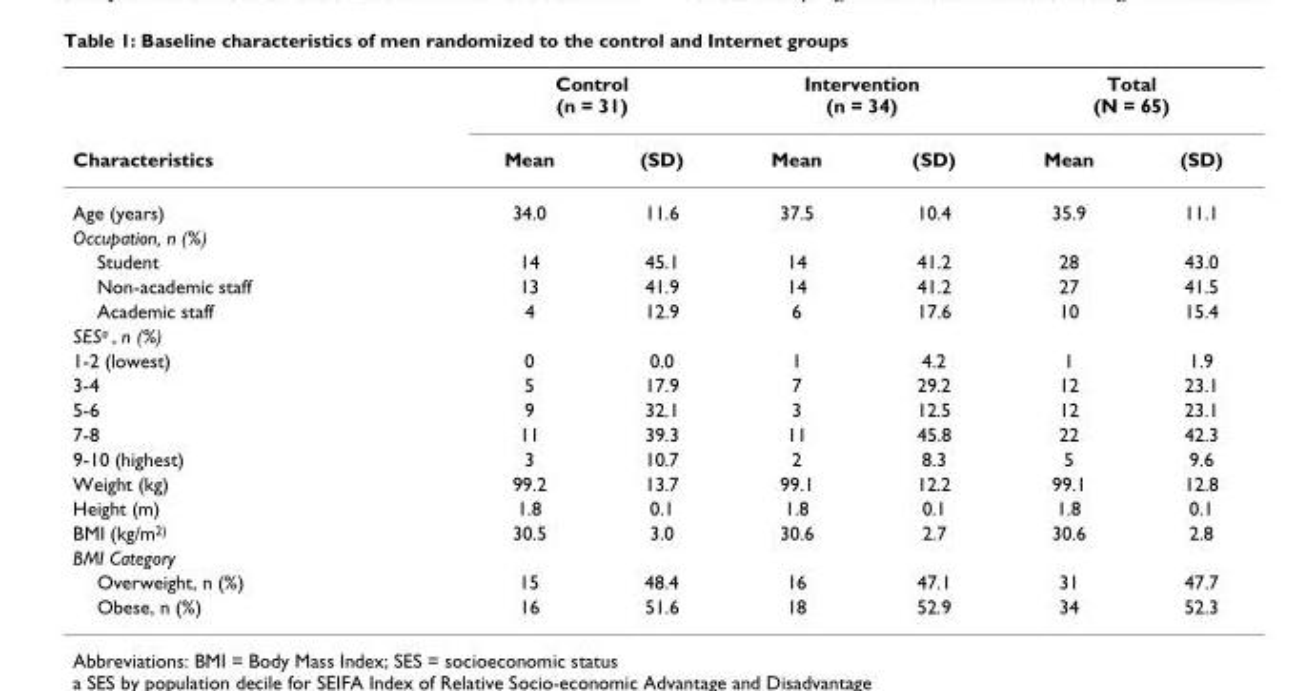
<table><thead><tr><td rowspan="2">Characteristics</td><td colspan="2">Control (n = 31)</td><td colspan="2">Intervention (n = 34)</td><td colspan="2">Total (N = 65)</td></tr><tr><td>Mean</td><td>(SD)</td><td>Mean</td><td>(SD)</td><td>Mean</td><td>(SD)</td></tr></thead><tbody><tr><td>Age (years)</td><td>34.0</td><td>11.6</td><td>37.5</td><td>10.4</td><td>35.9</td><td>11.1</td></tr><tr><td colspan="7">Occupation, n (%)</td></tr><tr><td>Student</td><td>14</td><td>45.1</td><td>14</td><td>41.2</td><td>28</td><td>43.0</td></tr><tr><td>Non-academic staff</td><td>13</td><td>41.9</td><td>14</td><td>41.2</td><td>27</td><td>41.5</td></tr><tr><td>Academic staff</td><td>4</td><td>12.9</td><td>6</td><td>17.6</td><td>10</td><td>15.4</td></tr><tr><td colspan="7">SES<sup>a</sup> , n (%)</td></tr><tr><td>1-2 (lowest)</td><td>0</td><td>0.0</td><td>1</td><td>4.2</td><td>1</td><td>1.9</td></tr><tr><td>3-4</td><td>5</td><td>17.9</td><td>7</td><td>29.2</td><td>12</td><td>23.1</td></tr><tr><td>5-6</td><td>9</td><td>32.1</td><td>3</td><td>12.5</td><td>12</td><td>23.1</td></tr><tr><td>7-8</td><td>11</td><td>39.3</td><td>11</td><td>45.8</td><td>22</td><td>42.3</td></tr><tr><td>9-10 (highest)</td><td>3</td><td>10.7</td><td>2</td><td>8.3</td><td>5</td><td>9.6</td></tr><tr><td>Weight (kg)</td><td>99.2</td><td>13.7</td><td>99.1</td><td>12.2</td><td>99.1</td><td>12.8</td></tr><tr><td>Height (m)</td><td>1.8</td><td>0.1</td><td>1.8</td><td>0.1</td><td>1.8</td><td>0.1</td></tr><tr><td>BMI (kg/m<sup>2)</sup></td><td>30.5</td><td>3.0</td><td>30.6</td><td>2.7</td><td>30.6</td><td>2.8</td></tr><tr><td colspan="7">BMI Category</td></tr><tr><td>Overweight, n (%)</td><td>15</td><td>48.4</td><td>16</td><td>47.1</td><td>31</td><td>47.7</td></tr><tr><td>Obese, n (%)</td><td>16</td><td>51.6</td><td>18</td><td>52.9</td><td>34</td><td>52.3</td></tr></tbody></table>